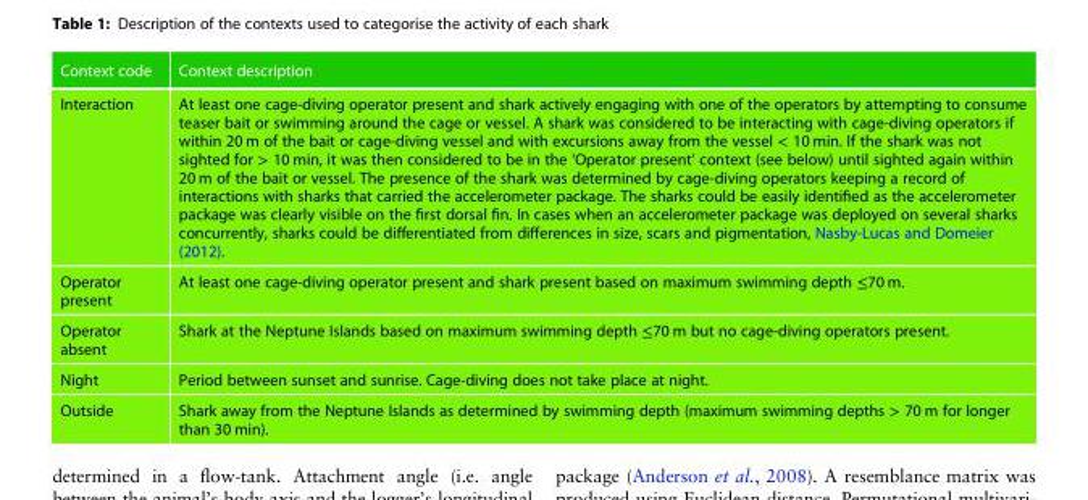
<table><thead><tr><td>Context code</td><td>Context description</td></tr></thead><tbody><tr><td>Interaction</td><td>At least one cage-diving operator present and shark actively engaging with one of the operators by attempting to consume teaser bait or swimming around the cage or vessel. A shark was considered to be interacting with cage-diving operators if within 20 m of the bait or cage-diving vessel and with excursions away from the vessel &lt; 10 min. If the shark was not sighted for &gt; 10 min, it was then considered to be in the ‘Operator present’ context (see below) until sighted again within 20 m of the bait or vessel. The presence of the shark was determined by cage-diving operators keeping a record of interactions with sharks that carried the accelerometer package. The sharks could be easily identified as the accelerometer package was clearly visible on the first dorsal fin. In cases when an accelerometer package was deployed on several sharks concurrently, sharks could be differentiated from differences in size, scars and pigmentation, Nasby-Lucas and Domeier (2012).</td></tr><tr><td>Operator present</td><td>At least one cage-diving operator present and shark present based on maximum swimming depth ≤70 m.</td></tr><tr><td>Operator absent</td><td>Shark at the Neptune Islands based on maximum swimming depth ≤70 m but no cage-diving operators present.</td></tr><tr><td>Night</td><td>Period between sunset and sunrise. Cage-diving does not take place at night.</td></tr><tr><td>Outside</td><td>Shark away from the Neptune Islands as determined by swimming depth (maximum swimming depths &gt; 70 m for longer than 30 min).</td></tr></tbody></table>